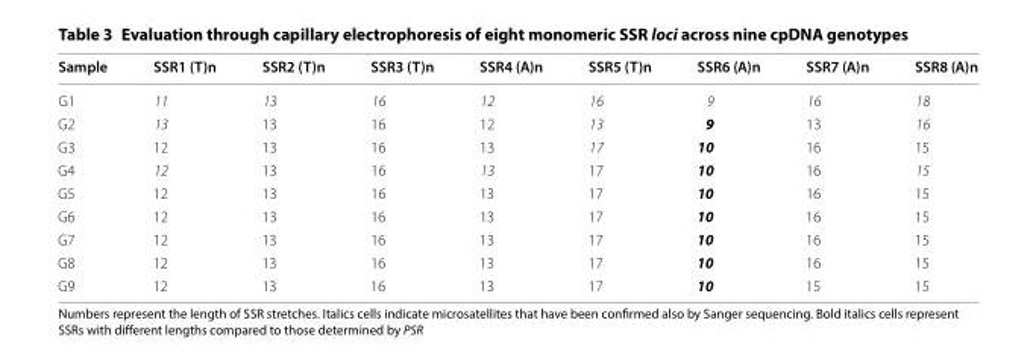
<table><thead><tr><td>Sample</td><td>SSR1 (T)n</td><td>SSR2 (T)n</td><td>SSR3 (T)n</td><td>SSR4 (A)n</td><td>SSR5 (T)n</td><td>SSR6 (A)n</td><td>SSR7 (A)n</td><td>SSR8 (A)n</td></tr></thead><tbody><tr><td>G1</td><td>11</td><td>13</td><td>16</td><td>12</td><td>16</td><td>9</td><td>16</td><td>18</td></tr><tr><td>G2</td><td>13</td><td>13</td><td>16</td><td>12</td><td>13</td><td>9</td><td>13</td><td>16</td></tr><tr><td>G3</td><td>12</td><td>13</td><td>16</td><td>13</td><td>17</td><td>10</td><td>16</td><td>15</td></tr><tr><td>G4</td><td>12</td><td>13</td><td>16</td><td>13</td><td>17</td><td>10</td><td>16</td><td>15</td></tr><tr><td>G5</td><td>12</td><td>13</td><td>16</td><td>13</td><td>17</td><td>10</td><td>16</td><td>15</td></tr><tr><td>G6</td><td>12</td><td>13</td><td>16</td><td>13</td><td>17</td><td>10</td><td>16</td><td>15</td></tr><tr><td>G7</td><td>12</td><td>13</td><td>16</td><td>13</td><td>17</td><td>10</td><td>16</td><td>15</td></tr><tr><td>G8</td><td>12</td><td>13</td><td>16</td><td>13</td><td>17</td><td>10</td><td>16</td><td>15</td></tr><tr><td>G9</td><td>12</td><td>13</td><td>16</td><td>13</td><td>17</td><td>10</td><td>15</td><td>15</td></tr></tbody></table>